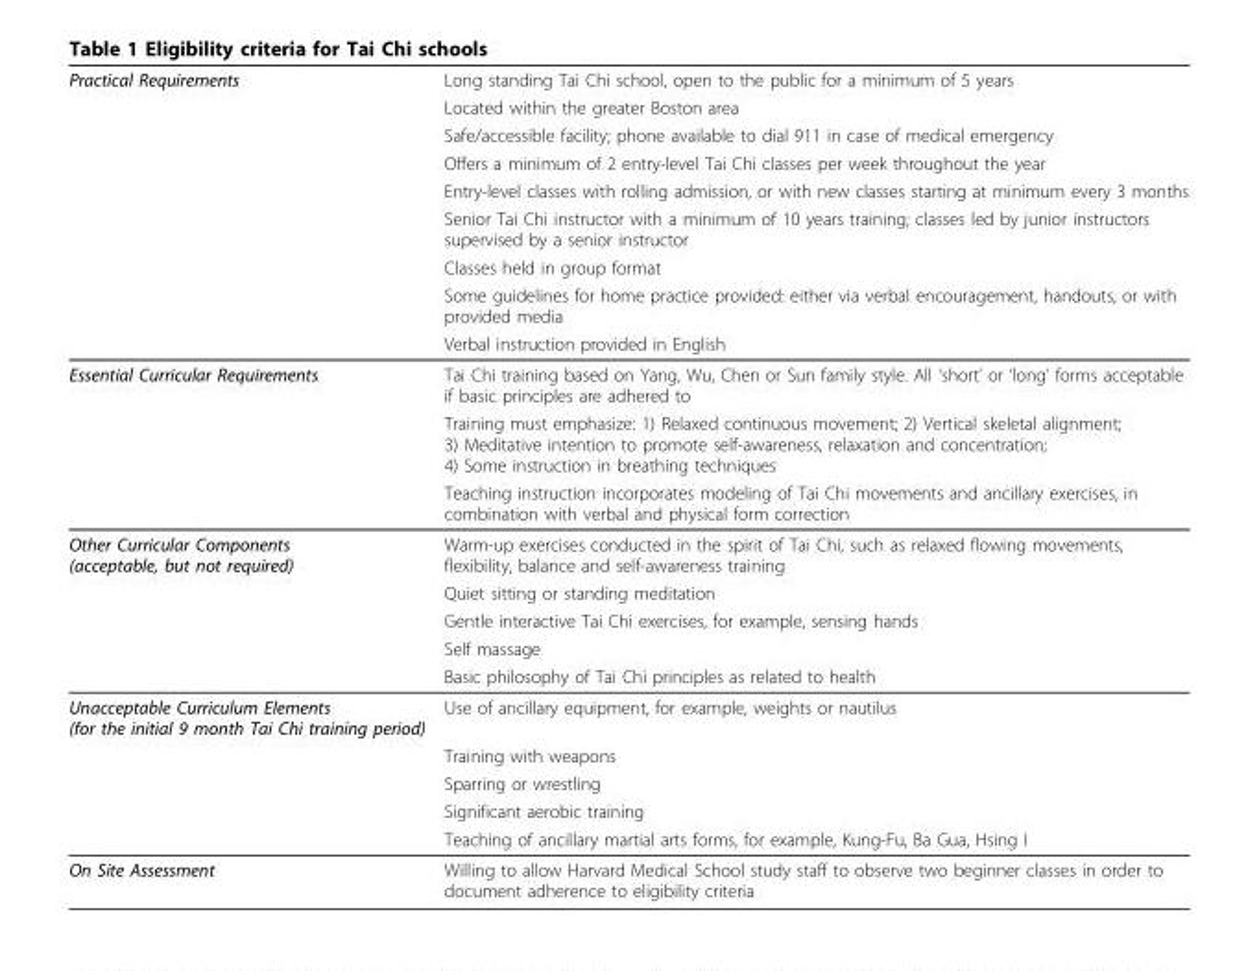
<table><thead><tr><td rowspan="9">Practical Requirements</td><td rowspan="9">Long standing Tai Chi school, open to the public for a minimum of 5 years Located within the greater Boston area Safe/accessible facility; phone available to dial 911 in case of medical emergency Offers a minimum of 2 entry-level Tai Chi classes per week throughout the year Entry-level classes with rolling admission, or with new classes starting at minimum every 3 months Senior Tai Chi instructor with a minimum of 10 years training; classes led by junior instructors supervised by a senior instructor Classes held in group format Some guidelines for home practice provided: either via verbal encouragement, handouts, or with provided media Verbal instruction provided in English</td></tr><tr></tr><tr></tr><tr></tr><tr></tr><tr></tr><tr></tr><tr></tr><tr></tr></thead><tbody><tr><td rowspan="3">Essential Curricular Requirements</td><td>Tai Chi training based on Yang, Wu, Chen or Sun family style. All ‘short’ or ‘long’ forms acceptable if basic principles are adhered to</td></tr><tr><td>Training must emphasize: 1) Relaxed continuous movement; 2) Vertical skeletal alignment; 3) Meditative intention to promote self-awareness, relaxation and concentration; 4) Some instruction in breathing techniques</td></tr><tr><td>Teaching instruction incorporates modeling of Tai Chi movements and ancillary exercises, in combination with verbal and physical form correction</td></tr><tr><td rowspan="5">Other Curricular Components (acceptable, but not required)</td><td>Warm-up exercises conducted in the spirit of Tai Chi, such as relaxed flowing movements, flexibility, balance and self-awareness training</td></tr><tr><td>Quiet sitting or standing meditation</td></tr><tr><td>Gentle interactive Tai Chi exercises, for example, sensing hands</td></tr><tr><td>Self massage</td></tr><tr><td>Basic philosophy of Tai Chi principles as related to health</td></tr><tr><td rowspan="5">Unacceptable Curriculum Elements (for the initial 9 month Tai Chi training period)</td><td>Use of ancillary equipment, for example, weights or nautilus</td></tr><tr><td>Training with weapons</td></tr><tr><td>Sparring or wrestling</td></tr><tr><td>Significant aerobic training</td></tr><tr><td>Teaching of ancillary martial arts forms, for example, Kung-Fu, Ba Gua, Hsing I</td></tr><tr><td>On Site Assessment</td><td>Willing to allow Harvard Medical School study staff to observe two beginner classes in order to document adherence to eligibility criteria</td></tr></tbody></table>